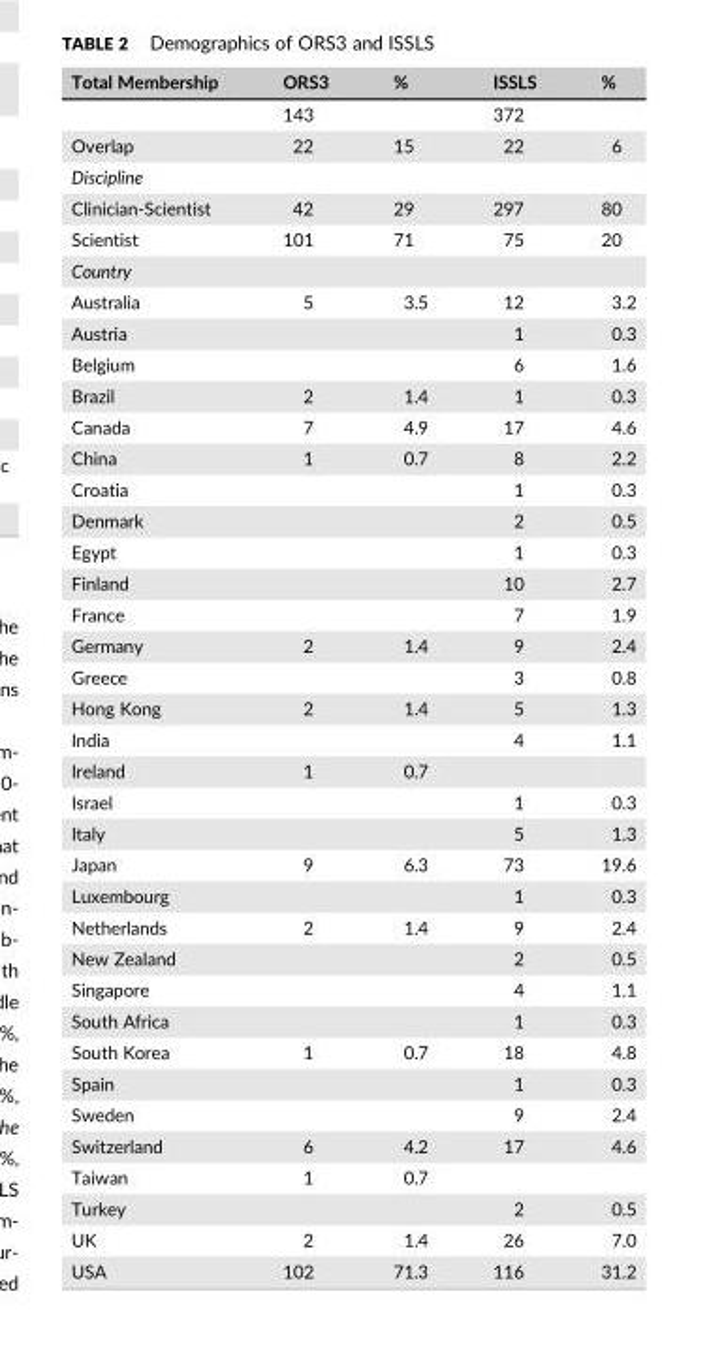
<table><thead><tr><td>Total Membership</td><td>ORS3</td><td>%</td><td>ISSLS</td><td>%</td></tr></thead><tbody><tr><td></td><td>143</td><td></td><td>372</td><td></td></tr><tr><td>Overlap</td><td>22</td><td>15</td><td>22</td><td>6</td></tr><tr><td colspan="5">Discipline</td></tr><tr><td>Clinician-Scientist</td><td>42</td><td>29</td><td>297</td><td>80</td></tr><tr><td>Scientist</td><td>101</td><td>71</td><td>75</td><td>20</td></tr><tr><td colspan="5">Country</td></tr><tr><td>Australia</td><td>5</td><td>3.5</td><td>12</td><td>3.2</td></tr><tr><td>Austria</td><td></td><td></td><td>1</td><td>0.3</td></tr><tr><td>Belgium</td><td></td><td></td><td>6</td><td>1.6</td></tr><tr><td>Brazil</td><td>2</td><td>1.4</td><td>1</td><td>0.3</td></tr><tr><td>Canada</td><td>7</td><td>4.9</td><td>17</td><td>4.6</td></tr><tr><td>China</td><td>1</td><td>0.7</td><td>8</td><td>2.2</td></tr><tr><td>Croatia</td><td></td><td></td><td>1</td><td>0.3</td></tr><tr><td>Denmark</td><td></td><td></td><td>2</td><td>0.5</td></tr><tr><td>Egypt</td><td></td><td></td><td>1</td><td>0.3</td></tr><tr><td>Finland</td><td></td><td></td><td>10</td><td>2.7</td></tr><tr><td>France</td><td></td><td></td><td>7</td><td>1.9</td></tr><tr><td>Germany</td><td>2</td><td>1.4</td><td>9</td><td>2.4</td></tr><tr><td>Greece</td><td></td><td></td><td>3</td><td>0.8</td></tr><tr><td>Hong Kong</td><td>2</td><td>1.4</td><td>5</td><td>1.3</td></tr><tr><td>India</td><td></td><td></td><td>4</td><td>1.1</td></tr><tr><td>Ireland</td><td>1</td><td>0.7</td><td></td><td></td></tr><tr><td>Israel</td><td></td><td></td><td>1</td><td>0.3</td></tr><tr><td>Italy</td><td></td><td></td><td>5</td><td>1.3</td></tr><tr><td>Japan</td><td>9</td><td>6.3</td><td>73</td><td>19.6</td></tr><tr><td>Luxembourg</td><td></td><td></td><td>1</td><td>0.3</td></tr><tr><td>Netherlands</td><td>2</td><td>1.4</td><td>9</td><td>2.4</td></tr><tr><td>New Zealand</td><td></td><td></td><td>2</td><td>0.5</td></tr><tr><td>Singapore</td><td></td><td></td><td>4</td><td>1.1</td></tr><tr><td>South Africa</td><td></td><td></td><td>1</td><td>0.3</td></tr><tr><td>South Korea</td><td>1</td><td>0.7</td><td>18</td><td>4.8</td></tr><tr><td>Spain</td><td></td><td></td><td>1</td><td>0.3</td></tr><tr><td>Sweden</td><td></td><td></td><td>9</td><td>2.4</td></tr><tr><td>Switzerland</td><td>6</td><td>4.2</td><td>17</td><td>4.6</td></tr><tr><td>Taiwan</td><td>1</td><td>0.7</td><td></td><td></td></tr><tr><td>Turkey</td><td></td><td></td><td>2</td><td>0.5</td></tr><tr><td>UK</td><td>2</td><td>1.4</td><td>26</td><td>7.0</td></tr><tr><td>USA</td><td>102</td><td>71.3</td><td>116</td><td>31.2</td></tr></tbody></table>